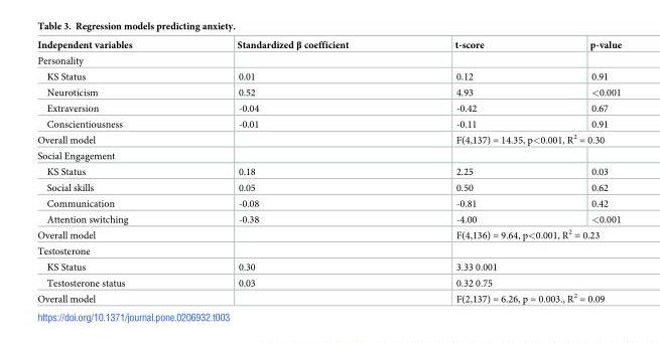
<table><thead><tr><td>Independent variables</td><td>Standardized β coefficient</td><td>t-score</td><td>p-value</td></tr></thead><tbody><tr><td colspan="4">Personality</td></tr><tr><td>KS Status</td><td>0.01</td><td>0.12</td><td>0.91</td></tr><tr><td>Neuroticism</td><td>0.52</td><td>4.93</td><td>&lt;0.001</td></tr><tr><td>Extraversion</td><td>-0.04</td><td>-0.42</td><td>0.67</td></tr><tr><td>Conscientiousness</td><td>-0.01</td><td>-0.11</td><td>0.91</td></tr><tr><td>Overall model</td><td></td><td colspan="2">F(4,137) = 14.35, p&lt;0.001, R<sup>2</sup> = 0.30</td></tr><tr><td colspan="4">Social Engagement</td></tr><tr><td>KS Status</td><td>0.18</td><td>2.25</td><td>0.03</td></tr><tr><td>Social skills</td><td>0.05</td><td>0.50</td><td>0.62</td></tr><tr><td>Communication</td><td>-0.08</td><td>-0.81</td><td>0.42</td></tr><tr><td>Attention switching</td><td>-0.38</td><td>-4.00</td><td>&lt;0.001</td></tr><tr><td>Overall model</td><td></td><td colspan="2">F(4,136) = 9.64, p&lt;0.001, R<sup>2</sup> = 0.23</td></tr><tr><td colspan="4">Testosterone</td></tr><tr><td>KS Status</td><td>0.30</td><td colspan="2">3.33 0.001</td></tr><tr><td>Testosterone status</td><td>0.03</td><td colspan="2">0.32 0.75</td></tr><tr><td>Overall model</td><td></td><td colspan="2">F(2,137) = 6.26, p = 0.003., R<sup>2</sup> = 0.09</td></tr></tbody></table>